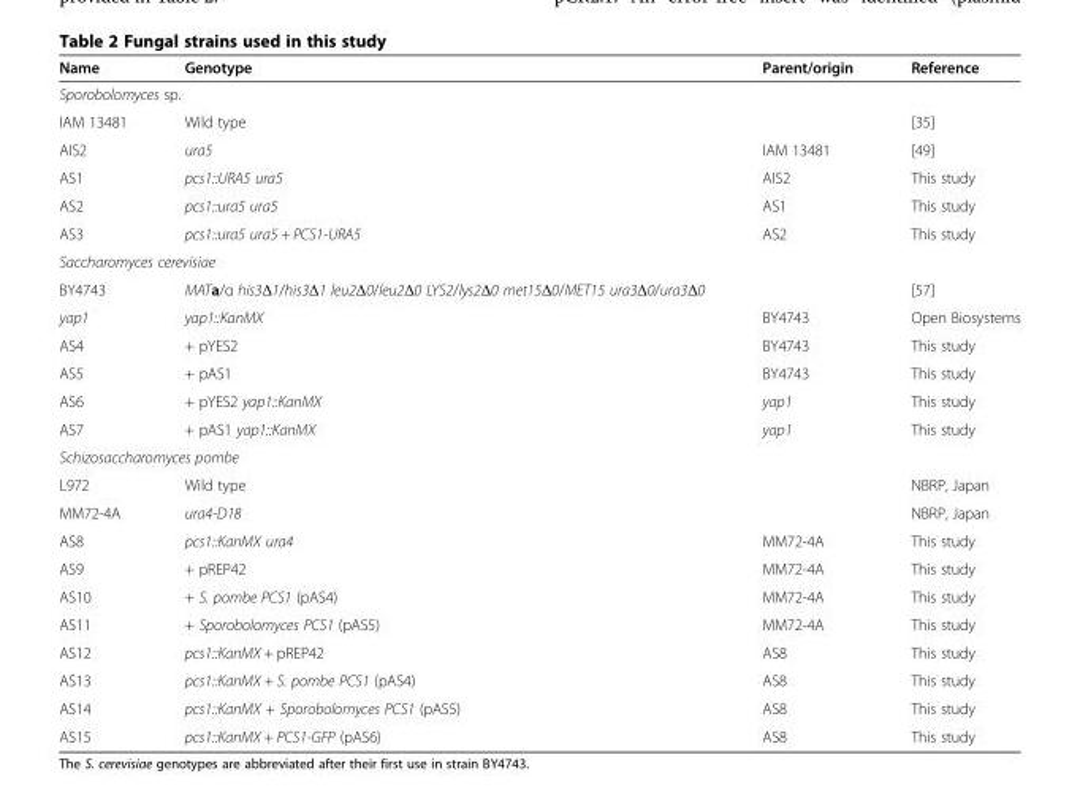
<table><thead><tr><td>Name</td><td>Genotype</td><td>Parent/origin</td><td>Reference</td></tr></thead><tbody><tr><td colspan="4">Sporobolomyces sp.</td></tr><tr><td>IAM 13481</td><td>Wild type</td><td></td><td>[35]</td></tr><tr><td>AIS2</td><td>ura5</td><td>IAM 13481</td><td>[49]</td></tr><tr><td>AS1</td><td>pcs1::URA5 ura5</td><td>AIS2</td><td>This study</td></tr><tr><td>AS2</td><td>pcs1::ura5 ura5</td><td>AS1</td><td>This study</td></tr><tr><td>AS3</td><td>pcs1::ura5 ura5 + PCS1-URA5</td><td>AS2</td><td>This study</td></tr><tr><td colspan="4">Saccharomyces cerevisiae</td></tr><tr><td>BY4743</td><td>MATa/α his3Δ1/his3Δ1 leu2Δ0/leu2Δ0 LYS2/lys2Δ0 met15Δ0/MET15 ura3Δ0/ura3Δ0</td><td></td><td>[57]</td></tr><tr><td>yap1</td><td>yap1::KanMX</td><td>BY4743</td><td>Open Biosystems</td></tr><tr><td>AS4</td><td>+ pYES2</td><td>BY4743</td><td>This study</td></tr><tr><td>AS5</td><td>+ pAS1</td><td>BY4743</td><td>This study</td></tr><tr><td>AS6</td><td>+ pYES2 yap1::KanMX</td><td>yap1</td><td>This study</td></tr><tr><td>AS7</td><td>+ pAS1 yap1::KanMX</td><td>yap1</td><td>This study</td></tr><tr><td colspan="4">Schizosaccharomyces pombe</td></tr><tr><td>L972</td><td>Wild type</td><td></td><td>NBRP, Japan</td></tr><tr><td>MM72-4A</td><td>ura4-D18</td><td></td><td>NBRP, Japan</td></tr><tr><td>AS8</td><td>pcs1::KanMX ura4</td><td>MM72-4A</td><td>This study</td></tr><tr><td>AS9</td><td>+ pREP42</td><td>MM72-4A</td><td>This study</td></tr><tr><td>AS10</td><td>+ S. pombe PCS1 (pAS4)</td><td>MM72-4A</td><td>This study</td></tr><tr><td>AS11</td><td>+ Sporobolomyces PCS1 (pAS5)</td><td>MM72-4A</td><td>This study</td></tr><tr><td>AS12</td><td>pcs1::KanMX + pREP42</td><td>AS8</td><td>This study</td></tr><tr><td>AS13</td><td>pcs1::KanMX + S. pombe PCS1 (pAS4)</td><td>AS8</td><td>This study</td></tr><tr><td>AS14</td><td>pcs1::KanMX + Sporobolomyces PCS1 (pAS5)</td><td>AS8</td><td>This study</td></tr><tr><td>AS15</td><td>pcs1::KanMX + PCS1-GFP (pAS6)</td><td>AS8</td><td>This study</td></tr></tbody></table>